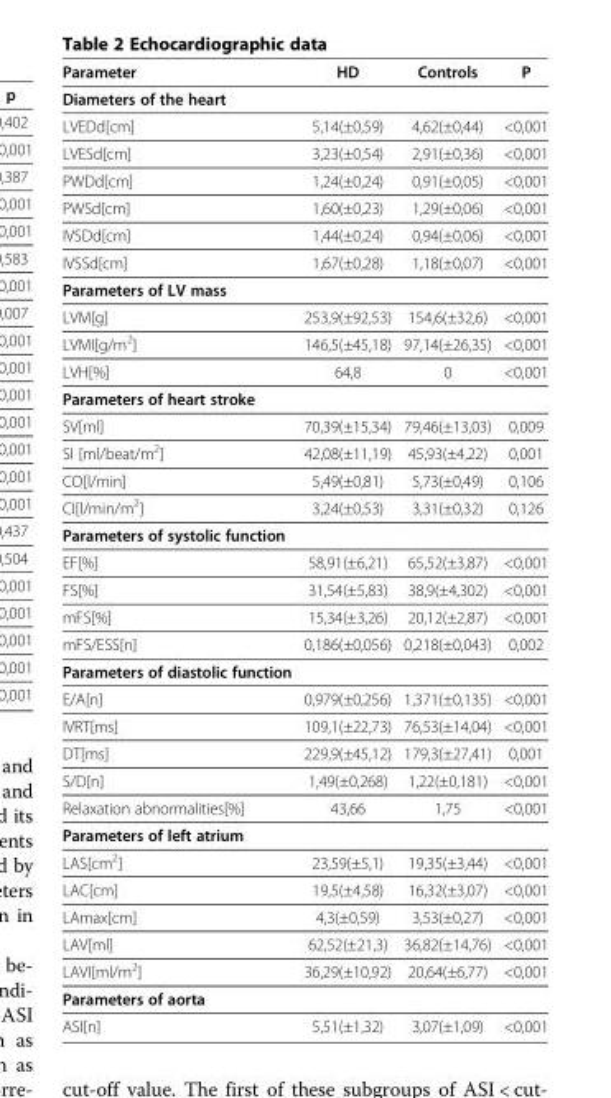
<table><thead><tr><td>Parameter</td><td>HD</td><td>Controls</td><td>P</td></tr></thead><tbody><tr><td colspan="4">Diameters of the heart</td></tr><tr><td>LVEDd[cm]</td><td>5,14(±0,59)</td><td>4,62(±0,44)</td><td>&lt;0,001</td></tr><tr><td>LVESd[cm]</td><td>3,23(±0,54)</td><td>2,91(±0,36)</td><td>&lt;0,001</td></tr><tr><td>PWDd[cm]</td><td>1,24(±0,24)</td><td>0,91(±0,05)</td><td>&lt;0,001</td></tr><tr><td>PWSd[cm]</td><td>1,60(±0,23)</td><td>1,29(±0,06)</td><td>&lt;0,001</td></tr><tr><td>IVSDd[cm]</td><td>1,44(±0,24)</td><td>0,94(±0,06)</td><td>&lt;0,001</td></tr><tr><td>IVSSd[cm]</td><td>1,67(±0,28)</td><td>1,18(±0,07)</td><td>&lt;0,001</td></tr><tr><td colspan="4">Parameters of LV mass</td></tr><tr><td>LVM[g]</td><td>253,9(±92,53)</td><td>154,6(±32,6)</td><td>&lt;0,001</td></tr><tr><td>LVMI[g/m<sup>2</sup>]</td><td>146,5(±45,18)</td><td>97,14(±26,35)</td><td>&lt;0,001</td></tr><tr><td>LVH[%]</td><td>64,8</td><td>0</td><td>&lt;0,001</td></tr><tr><td colspan="4">Parameters of heart stroke</td></tr><tr><td>SV[ml]</td><td>70,39(±15,34)</td><td>79,46(±13,03)</td><td>0,009</td></tr><tr><td>SI [ml/beat/m<sup>2</sup>]</td><td>42,08(±11,19)</td><td>45,93(±4,22)</td><td>0,001</td></tr><tr><td>CO[l/min]</td><td>5,49(±0,81)</td><td>5,73(±0,49)</td><td>0,106</td></tr><tr><td>CI[l/min/m<sup>2</sup>]</td><td>3,24(±0,53)</td><td>3,31(±0,32)</td><td>0,126</td></tr><tr><td colspan="4">Parameters of systolic function</td></tr><tr><td>EF[%]</td><td>58,91(±6,21)</td><td>65,52(±3,87)</td><td>&lt;0,001</td></tr><tr><td>FS[%]</td><td>31,54(±5,83)</td><td>38,9(±4,302)</td><td>&lt;0,001</td></tr><tr><td>mFS[%]</td><td>15,34(±3,26)</td><td>20,12(±2,87)</td><td>&lt;0,001</td></tr><tr><td>mFS/ESS[n]</td><td>0,186(±0,056)</td><td>0,218(±0,043)</td><td>0,002</td></tr><tr><td colspan="4">Parameters of diastolic function</td></tr><tr><td>E/A[n]</td><td>0,979(±0,256)</td><td>1,371(±0,135)</td><td>&lt;0,001</td></tr><tr><td>IVRT[ms]</td><td>109,1(±22,73)</td><td>76,53(±14,04)</td><td>&lt;0,001</td></tr><tr><td>DT[ms]</td><td>229,9(±45,12)</td><td>179,3(±27,41)</td><td>0,001</td></tr><tr><td>S/D[n]</td><td>1,49(±0,268)</td><td>1,22(±0,181)</td><td>&lt;0,001</td></tr><tr><td>Relaxation abnormalities[%]</td><td>43,66</td><td>1,75</td><td>&lt;0,001</td></tr><tr><td colspan="4">Parameters of left atrium</td></tr><tr><td>LAS[cm<sup>2</sup>]</td><td>23,59(±5,1)</td><td>19,35(±3,44)</td><td>&lt;0,001</td></tr><tr><td>LAC[cm]</td><td>19,5(±4,58)</td><td>16,32(±3,07)</td><td>&lt;0,001</td></tr><tr><td>LAmax[cm]</td><td>4,3(±0,59)</td><td>3,53(±0,27)</td><td>&lt;0,001</td></tr><tr><td>LAV[ml]</td><td>62,52(±21,3)</td><td>36,82(±14,76)</td><td>&lt;0,001</td></tr><tr><td>LAVI[ml/m<sup>2</sup>]</td><td>36,29(±10,92)</td><td>20,64(±6,77)</td><td>&lt;0,001</td></tr><tr><td colspan="4">Parameters of aorta</td></tr><tr><td>ASI[n]</td><td>5,51(±1,32)</td><td>3,07(±1,09)</td><td>&lt;0,001</td></tr></tbody></table>